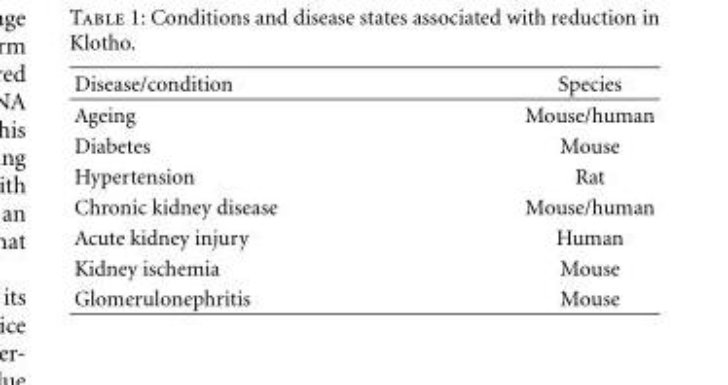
<table><thead><tr><td>Disease/condition</td><td>Species</td></tr></thead><tbody><tr><td>Ageing</td><td>Mouse/human</td></tr><tr><td>Diabetes</td><td>Mouse</td></tr><tr><td>Hypertension</td><td>Rat</td></tr><tr><td>Chronic kidney disease</td><td>Mouse/human</td></tr><tr><td>Acute kidney injury</td><td>Human</td></tr><tr><td>Kidney ischemia</td><td>Mouse</td></tr><tr><td>Glomerulonephritis</td><td>Mouse</td></tr></tbody></table>